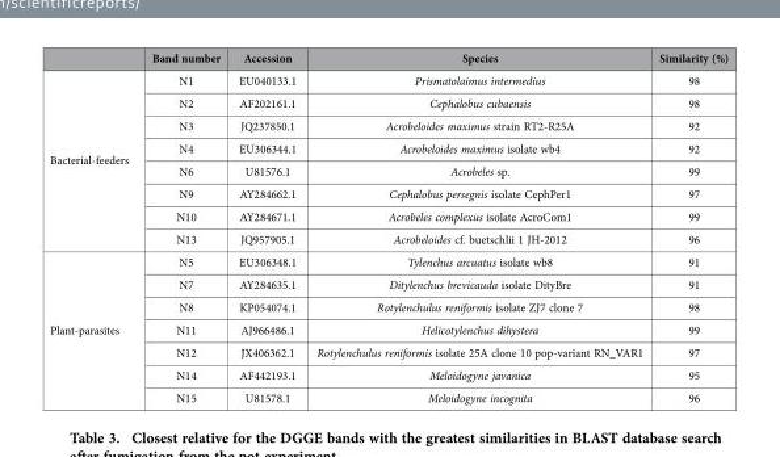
<table><thead><tr><td></td><td>Band number</td><td>Accession</td><td>Species</td><td>Similarity (%)</td></tr></thead><tbody><tr><td rowspan="8">Bacterial-feeders</td><td>N1</td><td>EU040133.1</td><td>Prismatolaimus intermedius</td><td>98</td></tr><tr><td>N2</td><td>AF202161.1</td><td>Cephalobus cubaensis</td><td>98</td></tr><tr><td>N3</td><td>JQ237850.1</td><td>Acrobeloides maximus strain RT2-R25A</td><td>92</td></tr><tr><td>N4</td><td>EU306344.1</td><td>Acrobeloides maximus isolate wb4</td><td>92</td></tr><tr><td>N6</td><td>U81576.1</td><td>Acrobeles sp.</td><td>99</td></tr><tr><td>N9</td><td>AY284662.1</td><td>Cephalobus persegnis isolate CephPer1</td><td>97</td></tr><tr><td>N10</td><td>AY284671.1</td><td>Acrobeles complexus isolate AcroCom1</td><td>99</td></tr><tr><td>N13</td><td>JQ957905.1</td><td>Acrobeloides cf. buetschlii 1 JH-2012</td><td>96</td></tr><tr><td rowspan="7">Plant-parasites</td><td>N5</td><td>EU306348.1</td><td>Tylenchus arcuatus isolate wb8</td><td>91</td></tr><tr><td>N7</td><td>AY284635.1</td><td>Ditylenchus brevicauda isolate DityBre</td><td>91</td></tr><tr><td>N8</td><td>KP054074.1</td><td>Rotylenchulus reniformis isolate ZJ7 clone 7</td><td>98</td></tr><tr><td>N11</td><td>AJ966486.1</td><td>Helicotylenchus dihystera</td><td>99</td></tr><tr><td>N12</td><td>JX406362.1</td><td>Rotylenchulus reniformis isolate 25A clone 10 pop-variant RN_VAR1</td><td>97</td></tr><tr><td>N14</td><td>AF442193.1</td><td>Meloidogyne javanica</td><td>95</td></tr><tr><td>N15</td><td>U81578.1</td><td>Meloidogyne incognita</td><td>96</td></tr></tbody></table>